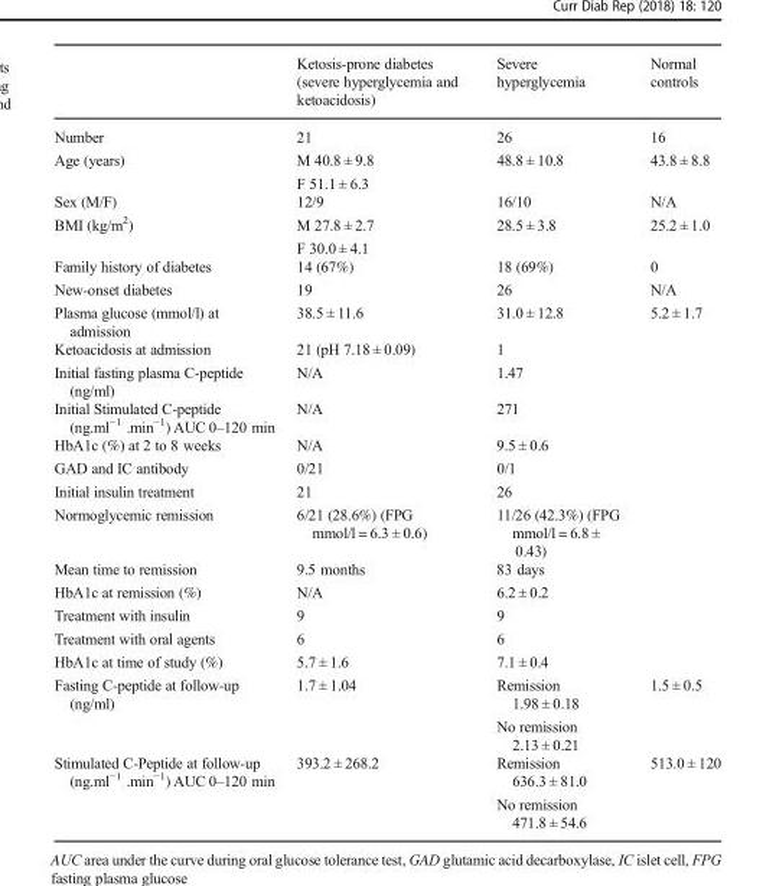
<table><thead><tr><td></td><td>Ketosis-prone diabetes (severe hyperglycemia and ketoacidosis)</td><td>Severe hyperglycemia</td><td>Normal controls</td></tr></thead><tbody><tr><td>Number</td><td>21</td><td>26</td><td>16</td></tr><tr><td>Age (years)</td><td>M 40.8 ± 9.8 F 51.1 ± 6.3</td><td>48.8 ± 10.8</td><td>43.8 ± 8.8</td></tr><tr><td>Sex (M/F)</td><td>12/9</td><td>16/10</td><td>N/A</td></tr><tr><td>BMI (kg/m<sup>2</sup>)</td><td>M 27.8 ± 2.7 F 30.0 ± 4.1</td><td>28.5 ± 3.8</td><td>25.2 ± 1.0</td></tr><tr><td>Family history of diabetes</td><td>14 (67%)</td><td>18 (69%)</td><td>0</td></tr><tr><td>New-onset diabetes</td><td>19</td><td>26</td><td>N/A</td></tr><tr><td>Plasma glucose (mmol/l) at admission</td><td>38.5 ± 11.6</td><td>31.0 ± 12.8</td><td>5.2 ± 1.7</td></tr><tr><td>Ketoacidosis at admission</td><td>21 (pH 7.18 ± 0.09)</td><td>1</td><td></td></tr><tr><td>Initial fasting plasma C-peptide (ng/ml)</td><td>N/A</td><td>1.47</td><td></td></tr><tr><td>Initial Stimulated C-peptide (ng.ml<sup>−1</sup> .min<sup>−1</sup>) AUC 0–120 min</td><td>N/A</td><td>271</td><td></td></tr><tr><td>HbA1c (%) at 2 to 8 weeks</td><td>N/A</td><td>9.5 ± 0.6</td><td></td></tr><tr><td>GAD and IC antibody</td><td>0/21</td><td>0/1</td><td></td></tr><tr><td>Initial insulin treatment</td><td>21</td><td>26</td><td></td></tr><tr><td>Normoglycemic remission</td><td>6/21 (28.6%) (FPG mmol/l = 6.3 ± 0.6)</td><td>11/26 (42.3%) (FPG mmol/l = 6.8 ± 0.43)</td><td></td></tr><tr><td>Mean time to remission</td><td>9.5 months</td><td>83 days</td><td></td></tr><tr><td>HbA1c at remission (%)</td><td>N/A</td><td>6.2 ± 0.2</td><td></td></tr><tr><td>Treatment with insulin</td><td>9</td><td>9</td><td></td></tr><tr><td>Treatment with oral agents</td><td>6</td><td>6</td><td></td></tr><tr><td>HbA1c at time of study (%)</td><td>5.7 ± 1.6</td><td>7.1 ± 0.4</td><td></td></tr><tr><td>Fasting C-peptide at follow-up (ng/ml)</td><td>1.7 ± 1.04</td><td>Remission 1.98 ± 0.18 No remission 2.13 ± 0.21</td><td>1.5 ± 0.5</td></tr><tr><td>Stimulated C-Peptide at follow-up (ng.ml<sup>−1</sup> .min<sup>−1</sup>) AUC 0–120 min</td><td>393.2 ± 268.2</td><td>Remission 636.3 ± 81.0 No remission 471.8 ± 54.6</td><td>513.0 ± 120</td></tr></tbody></table>